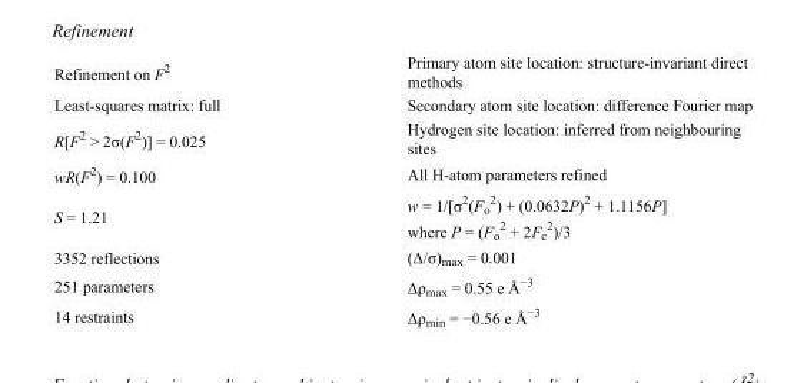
<table><tbody><tr><td>Refinement on F<sup>2</sup></td><td>Primary atom site location: structure-invariant direct methods</td></tr><tr><td>Least-squares matrix: full</td><td>Secondary atom site location: difference Fourier map</td></tr><tr><td>R[F<sup>2</sup> &gt; 2σ(F<sup>2</sup>)] = 0.025</td><td>Hydrogen site location: inferred from neighbouring sites</td></tr><tr><td>wR(F<sup>2</sup>) = 0.100</td><td>All H-atom parameters refined</td></tr><tr><td>S = 1.21</td><td>w = 1/[σ<sup>2</sup>(F<sub>o</sub> <sup>2</sup>) + (0.0632P)<sup>2</sup> + 1.1156P] where P = (F<sub>o</sub> <sup>2</sup> + 2F<sub>c</sub> <sup>2</sup>)/3</td></tr><tr><td>3352 reflections</td><td>(Δ/σ)<sub>max</sub> = 0.001</td></tr><tr><td>251 parameters</td><td>Δρ<sub>max</sub> = 0.55 e Å<sup>−3</sup></td></tr><tr><td>14 restraints</td><td>Δρ<sub>min</sub> = −0.56 e Å<sup>−3</sup></td></tr></tbody></table>